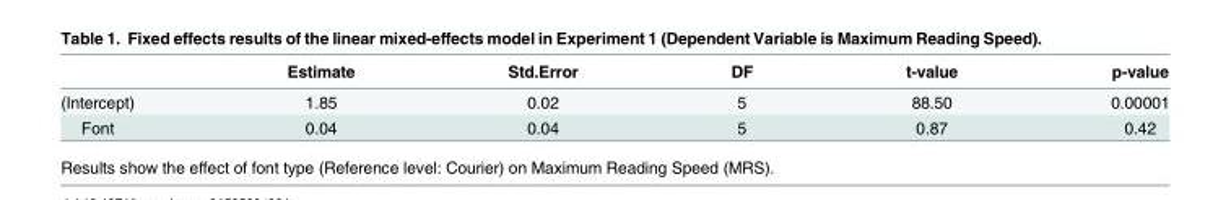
<table><thead><tr><td></td><td>Estimate</td><td>Std.Error</td><td>DF</td><td>t-value</td><td>p-value</td></tr></thead><tbody><tr><td>(Intercept)</td><td>1.85</td><td>0.02</td><td>5</td><td>88.50</td><td>0.00001</td></tr><tr><td>Font</td><td>0.04</td><td>0.04</td><td>5</td><td>0.87</td><td>0.42</td></tr></tbody></table>